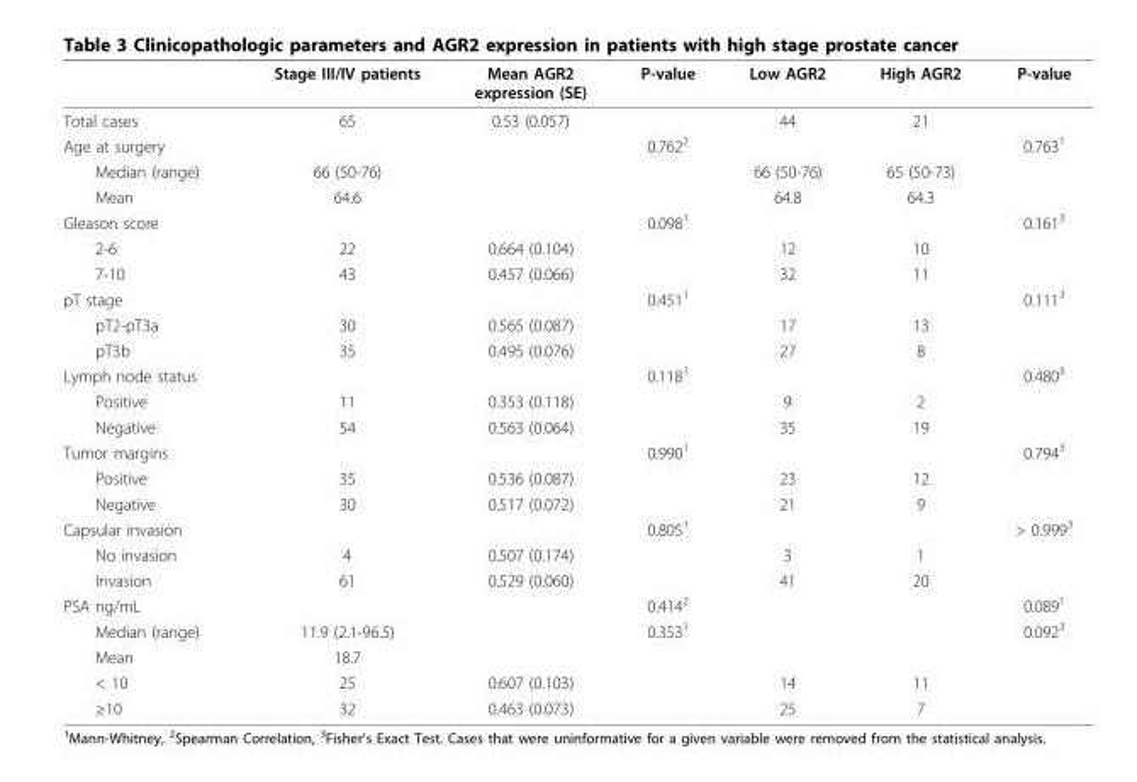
<table><thead><tr><td></td><td>Stage III/IV patients</td><td>Mean AGR2 expression (SE)</td><td>P-value</td><td>Low AGR2</td><td>High AGR2</td><td>P-value</td></tr></thead><tbody><tr><td>Total cases</td><td>65</td><td>0.53 (0.057)</td><td></td><td>44</td><td>21</td><td></td></tr><tr><td>Age at surgery</td><td></td><td></td><td>0.762<sup>2</sup></td><td></td><td></td><td>0.763<sup>1</sup></td></tr><tr><td>Median (range)</td><td>66 (50-76)</td><td></td><td></td><td>66 (50-76)</td><td>65 (50-73)</td><td></td></tr><tr><td>Mean</td><td>64.6</td><td></td><td></td><td>64.8</td><td>64.3</td><td></td></tr><tr><td>Gleason score</td><td></td><td></td><td>0.098<sup>1</sup></td><td></td><td></td><td>0.161<sup>3</sup></td></tr><tr><td>2-6</td><td>22</td><td>0.664 (0.104)</td><td></td><td>12</td><td>10</td><td></td></tr><tr><td>7-10</td><td>43</td><td>0.457 (0.066)</td><td></td><td>32</td><td>11</td><td></td></tr><tr><td>pT stage</td><td></td><td></td><td>0.451<sup>1</sup></td><td></td><td></td><td>0.111<sup>3</sup></td></tr><tr><td>pT2-pT3a</td><td>30</td><td>0.565 (0.087)</td><td></td><td>17</td><td>13</td><td></td></tr><tr><td>pT3b</td><td>35</td><td>0.495 (0.076)</td><td></td><td>27</td><td>8</td><td></td></tr><tr><td>Lymph node status</td><td></td><td></td><td>0.118<sup>1</sup></td><td></td><td></td><td>0.480<sup>3</sup></td></tr><tr><td>Positive</td><td>11</td><td>0.353 (0.118)</td><td></td><td>9</td><td>2</td><td></td></tr><tr><td>Negative</td><td>54</td><td>0.563 (0.064)</td><td></td><td>35</td><td>19</td><td></td></tr><tr><td>Tumor margins</td><td></td><td></td><td>0.990<sup>1</sup></td><td></td><td></td><td>0.794<sup>3</sup></td></tr><tr><td>Positive</td><td>35</td><td>0.536 (0.087)</td><td></td><td>23</td><td>12</td><td></td></tr><tr><td>Negative</td><td>30</td><td>0.517 (0.072)</td><td></td><td>21</td><td>9</td><td></td></tr><tr><td>Capsular invasion</td><td></td><td></td><td>0.805<sup>1</sup></td><td></td><td></td><td>&gt; 0.999<sup>3</sup></td></tr><tr><td>No invasion</td><td>4</td><td>0.507 (0.174)</td><td></td><td>3</td><td>1</td><td></td></tr><tr><td>Invasion</td><td>61</td><td>0.529 (0.060)</td><td></td><td>41</td><td>20</td><td></td></tr><tr><td>PSA ng/mL</td><td></td><td></td><td>0.414<sup>2</sup></td><td></td><td></td><td>0.089<sup>1</sup></td></tr><tr><td>Median (range)</td><td>11.9 (2.1-96.5)</td><td></td><td>0.353<sup>1</sup></td><td></td><td></td><td>0.092<sup>3</sup></td></tr><tr><td>Mean</td><td>18.7</td><td></td><td></td><td></td><td></td><td></td></tr><tr><td>&lt; 10</td><td>25</td><td>0.607 (0.103)</td><td></td><td>14</td><td>11</td><td></td></tr><tr><td>≥10</td><td>32</td><td>0.463 (0.073)</td><td></td><td>25</td><td>7</td><td></td></tr></tbody></table>